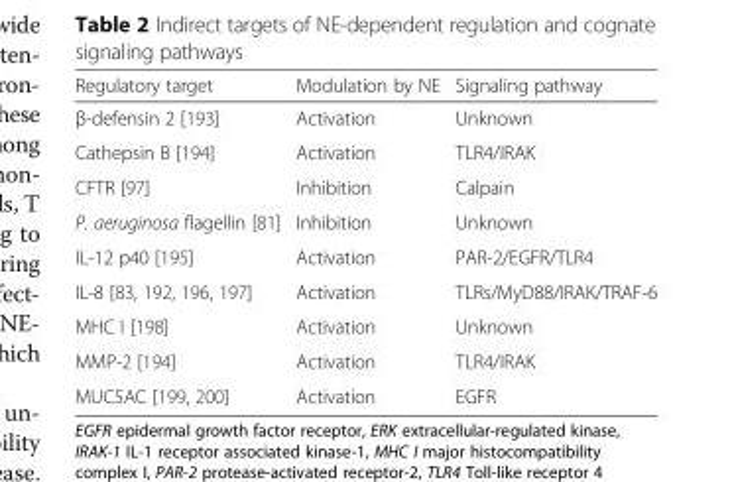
<table><thead><tr><td>Regulatory target</td><td>Modulation by NE</td><td>Signaling pathway</td></tr></thead><tbody><tr><td>β-defensin 2 [193]</td><td>Activation</td><td>Unknown</td></tr><tr><td>Cathepsin B [194]</td><td>Activation</td><td>TLR4/IRAK</td></tr><tr><td>CFTR [97]</td><td>Inhibition</td><td>Calpain</td></tr><tr><td>P. aeruginosa flagellin [81]</td><td>Inhibition</td><td>Unknown</td></tr><tr><td>IL-12 p40 [195]</td><td>Activation</td><td>PAR-2/EGFR/TLR4</td></tr><tr><td>IL-8 [83, 192, 196, 197]</td><td>Activation</td><td>TLRs/MyD88/IRAK/TRAF-6</td></tr><tr><td>MHC I [198]</td><td>Activation</td><td>Unknown</td></tr><tr><td>MMP-2 [194]</td><td>Activation</td><td>TLR4/IRAK</td></tr><tr><td>MUC5AC [199, 200]</td><td>Activation</td><td>EGFR</td></tr></tbody></table>